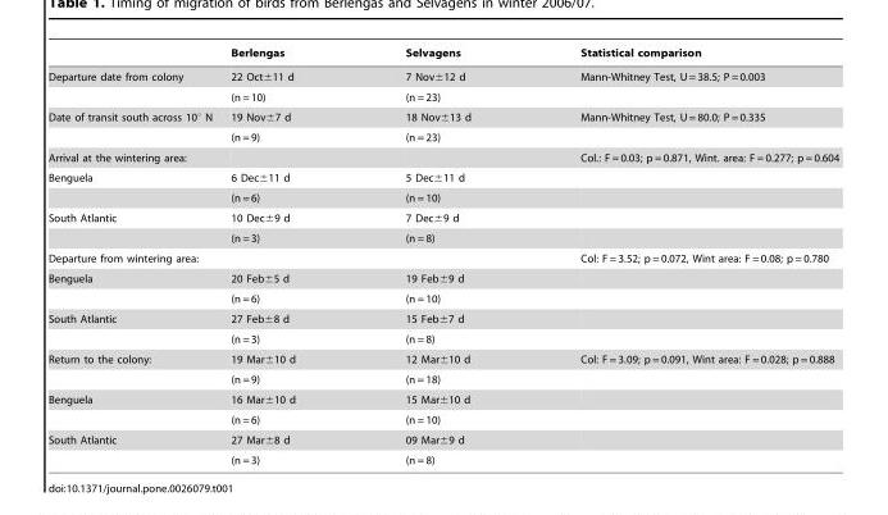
<table><thead><tr><td></td><td>Berlengas</td><td>Selvagens</td><td>Statistical comparison</td></tr></thead><tbody><tr><td rowspan="2">Departure date from colony</td><td>22 Oct±11 d</td><td>7 Nov±12 d</td><td>Mann-Whitney Test, U = 38.5; P = 0.003</td></tr><tr><td>(n = 10)</td><td>(n = 23)</td><td></td></tr><tr><td rowspan="2">Date of transit south across 10° N</td><td>19 Nov±7 d</td><td>18 Nov±13 d</td><td>Mann-Whitney Test, U = 80.0; P = 0.335</td></tr><tr><td>(n = 9)</td><td>(n = 23)</td><td></td></tr><tr><td>Arrival at the wintering area:</td><td></td><td></td><td>Col.: F = 0.03; p = 0.871, Wint. area: F = 0.277; p = 0.604</td></tr><tr><td rowspan="2">Benguela</td><td>6 Dec±11 d</td><td>5 Dec±11 d</td><td></td></tr><tr><td>(n = 6)</td><td>(n = 10)</td><td></td></tr><tr><td rowspan="2">South Atlantic</td><td>10 Dec±9 d</td><td>7 Dec±9 d</td><td></td></tr><tr><td>(n = 3)</td><td>(n = 8)</td><td></td></tr><tr><td>Departure from wintering area:</td><td></td><td></td><td>Col: F = 3.52; p = 0.072, Wint area: F = 0.08; p = 0.780</td></tr><tr><td rowspan="2">Benguela</td><td>20 Feb±5 d</td><td>19 Feb±9 d</td><td></td></tr><tr><td>(n = 6)</td><td>(n = 10)</td><td></td></tr><tr><td rowspan="2">South Atlantic</td><td>27 Feb±8 d</td><td>15 Feb±7 d</td><td></td></tr><tr><td>(n = 3)</td><td>(n = 8)</td><td></td></tr><tr><td rowspan="2">Return to the colony:</td><td>19 Mar±10 d</td><td>12 Mar±10 d</td><td>Col: F = 3.09; p = 0.091, Wint area: F = 0.028; p = 0.888</td></tr><tr><td>(n = 9)</td><td>(n = 18)</td><td></td></tr><tr><td rowspan="2">Benguela</td><td>16 Mar±10 d</td><td>15 Mar±10 d</td><td></td></tr><tr><td>(n = 6)</td><td>(n = 10)</td><td></td></tr><tr><td rowspan="2">South Atlantic</td><td>27 Mar±8 d</td><td>09 Mar±9 d</td><td></td></tr><tr><td>(n = 3)</td><td>(n = 8)</td><td></td></tr></tbody></table>